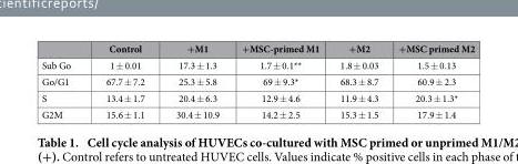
<table><thead><tr><td></td><td>Control</td><td>+M1</td><td>+MSC-primed M1</td><td>+M2</td><td>+MSC primed M2</td></tr></thead><tbody><tr><td>Sub Go</td><td>1 ± 0.01</td><td>17.3 ± 1.3</td><td>1.7 ± 0.1**</td><td>1.8 ± 0.03</td><td>1.5 ± 0.13</td></tr><tr><td>Go/G1</td><td>67.7 ± 7.2</td><td>25.3 ± 5.8</td><td>69 ± 9.3*</td><td>68.3 ± 8.7</td><td>60.9 ± 2.3</td></tr><tr><td>S</td><td>13.4 ± 1.7</td><td>20.4 ± 6.3</td><td>12.9 ± 4.6</td><td>11.9 ± 4.3</td><td>20.3 ± 1.3*</td></tr><tr><td>G2M</td><td>15.6 ± 1.1</td><td>30.4 ± 10.9</td><td>14.2 ± 2.5</td><td>15.3 ± 1.5</td><td>17.9 ± 1.4</td></tr></tbody></table>